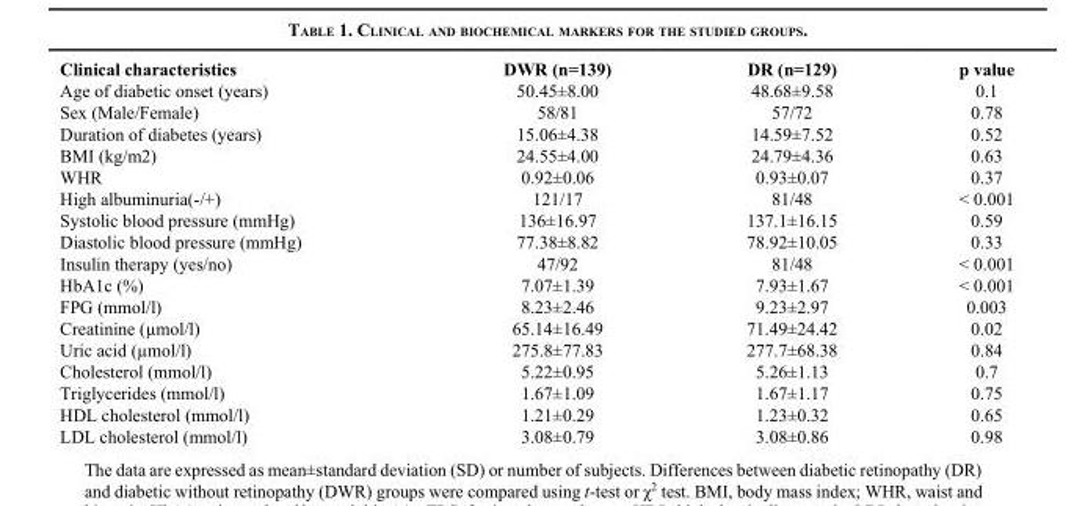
<table><thead><tr><td>Clinical characteristics</td><td>DWR (n=139)</td><td>DR (n=129)</td><td>p value</td></tr></thead><tbody><tr><td>Age of diabetic onset (years)</td><td>50.45±8.00</td><td>48.68±9.58</td><td>0.1</td></tr><tr><td>Sex (Male/Female)</td><td>58/81</td><td>57/72</td><td>0.78</td></tr><tr><td>Duration of diabetes (years)</td><td>15.06±4.38</td><td>14.59±7.52</td><td>0.52</td></tr><tr><td>BMI (kg/m2)</td><td>24.55±4.00</td><td>24.79±4.36</td><td>0.63</td></tr><tr><td>WHR</td><td>0.92±0.06</td><td>0.93±0.07</td><td>0.37</td></tr><tr><td>High albuminuria(-/+)</td><td>121/17</td><td>81/48</td><td>&lt; 0.001</td></tr><tr><td>Systolic blood pressure (mmHg)</td><td>136±16.97</td><td>137.1±16.15</td><td>0.59</td></tr><tr><td>Diastolic blood pressure (mmHg)</td><td>77.38±8.82</td><td>78.92±10.05</td><td>0.33</td></tr><tr><td>Insulin therapy (yes/no)</td><td>47/92</td><td>81/48</td><td>&lt; 0.001</td></tr><tr><td>HbA1c (%)</td><td>7.07±1.39</td><td>7.93±1.67</td><td>&lt; 0.001</td></tr><tr><td>FPG (mmol/l)</td><td>8.23±2.46</td><td>9.23±2.97</td><td>0.003</td></tr><tr><td>Creatinine (µmol/l)</td><td>65.14±16.49</td><td>71.49±24.42</td><td>0.02</td></tr><tr><td>Uric acid (µmol/l)</td><td>275.8±77.83</td><td>277.7±68.38</td><td>0.84</td></tr><tr><td>Cholesterol (mmol/l)</td><td>5.22±0.95</td><td>5.26±1.13</td><td>0.7</td></tr><tr><td>Triglycerides (mmol/l)</td><td>1.67±1.09</td><td>1.67±1.17</td><td>0.75</td></tr><tr><td>HDL cholesterol (mmol/l)</td><td>1.21±0.29</td><td>1.23±0.32</td><td>0.65</td></tr><tr><td>LDL cholesterol (mmol/l)</td><td>3.08±0.79</td><td>3.08±0.86</td><td>0.98</td></tr></tbody></table>